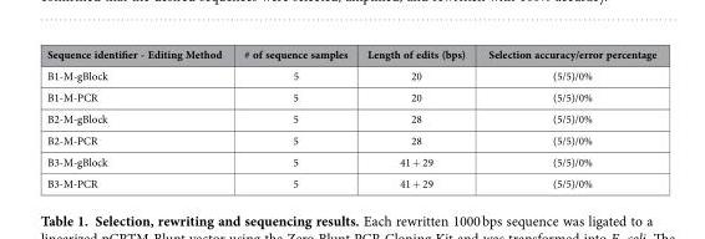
<table><thead><tr><td>Sequence identifier - Editing Method</td><td># of sequence samples</td><td>Length of edits (bps)</td><td>Selection accuracy/error percentage</td></tr></thead><tbody><tr><td>B1-M-gBlock</td><td>5</td><td>20</td><td>(5/5)/0%</td></tr><tr><td>B1-M-PCR</td><td>5</td><td>20</td><td>(5/5)/0%</td></tr><tr><td>B2-M-gBlock</td><td>5</td><td>28</td><td>(5/5)/0%</td></tr><tr><td>B2-M-PCR</td><td>5</td><td>28</td><td>(5/5)/0%</td></tr><tr><td>B3-M-gBlock</td><td>5</td><td>41 + 29</td><td>(5/5)/0%</td></tr><tr><td>B3-M-PCR</td><td>5</td><td>41 + 29</td><td>(5/5)/0%</td></tr></tbody></table>